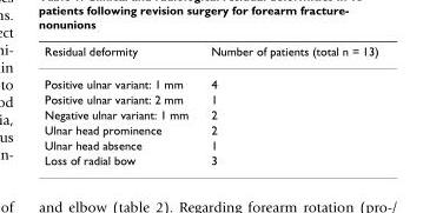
<table><thead><tr><td>Residual deformity</td><td>Number of patients (total n = 13)</td></tr></thead><tbody><tr><td>Positive ulnar variant: 1 mm</td><td>4</td></tr><tr><td>Positive ulnar variant: 2 mm</td><td>1</td></tr><tr><td>Negative ulnar variant: 1 mm</td><td>2</td></tr><tr><td>Ulnar head prominence</td><td>2</td></tr><tr><td>Ulnar head absence</td><td>1</td></tr><tr><td>Loss of radial bow</td><td>3</td></tr></tbody></table>